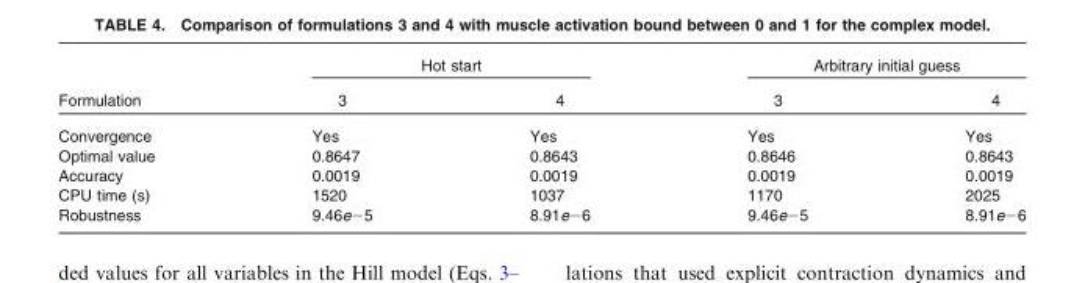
<table><thead><tr><td rowspan="2">Formulation</td><td colspan="2">Hot start</td><td colspan="2">Arbitrary initial guess</td></tr><tr><td>3</td><td>4</td><td>3</td><td>4</td></tr></thead><tbody><tr><td>Convergence</td><td>Yes</td><td>Yes</td><td>Yes</td><td>Yes</td></tr><tr><td>Optimal value</td><td>0.8647</td><td>0.8643</td><td>0.8646</td><td>0.8643</td></tr><tr><td>Accuracy</td><td>0.0019</td><td>0.0019</td><td>0.0019</td><td>0.0019</td></tr><tr><td>CPU time (s)</td><td>1520</td><td>1037</td><td>1170</td><td>2025</td></tr><tr><td>Robustness</td><td>9.46e−5</td><td>8.91e−6</td><td>9.46e−5</td><td>8.91e−6</td></tr></tbody></table>